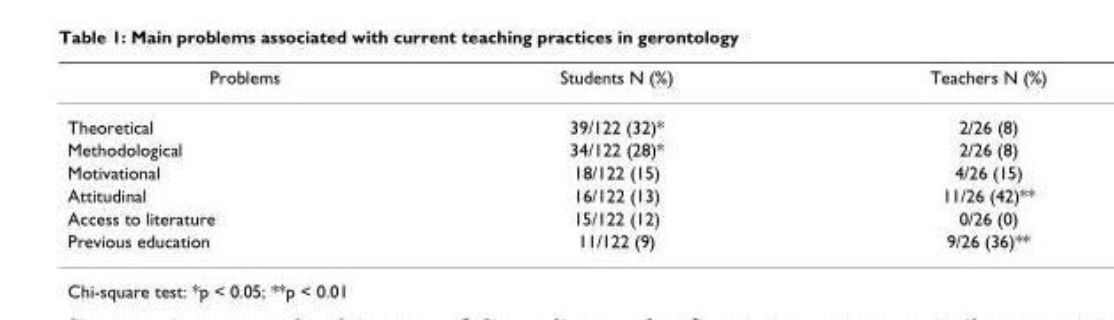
<table><thead><tr><td>Problems</td><td>Students N (%)</td><td>Teachers N (%)</td></tr></thead><tbody><tr><td>Theoretical</td><td>39/122 (32)*</td><td>2/26 (8)</td></tr><tr><td>Methodological</td><td>34/122 (28)*</td><td>2/26 (8)</td></tr><tr><td>Motivational</td><td>18/122 (15)</td><td>4/26 (15)</td></tr><tr><td>Attitudinal</td><td>16/122 (13)</td><td>11/26 (42)**</td></tr><tr><td>Access to literature</td><td>15/122 (12)</td><td>0/26 (0)</td></tr><tr><td>Previous education</td><td>11/122 (9)</td><td>9/26 (36)**</td></tr></tbody></table>